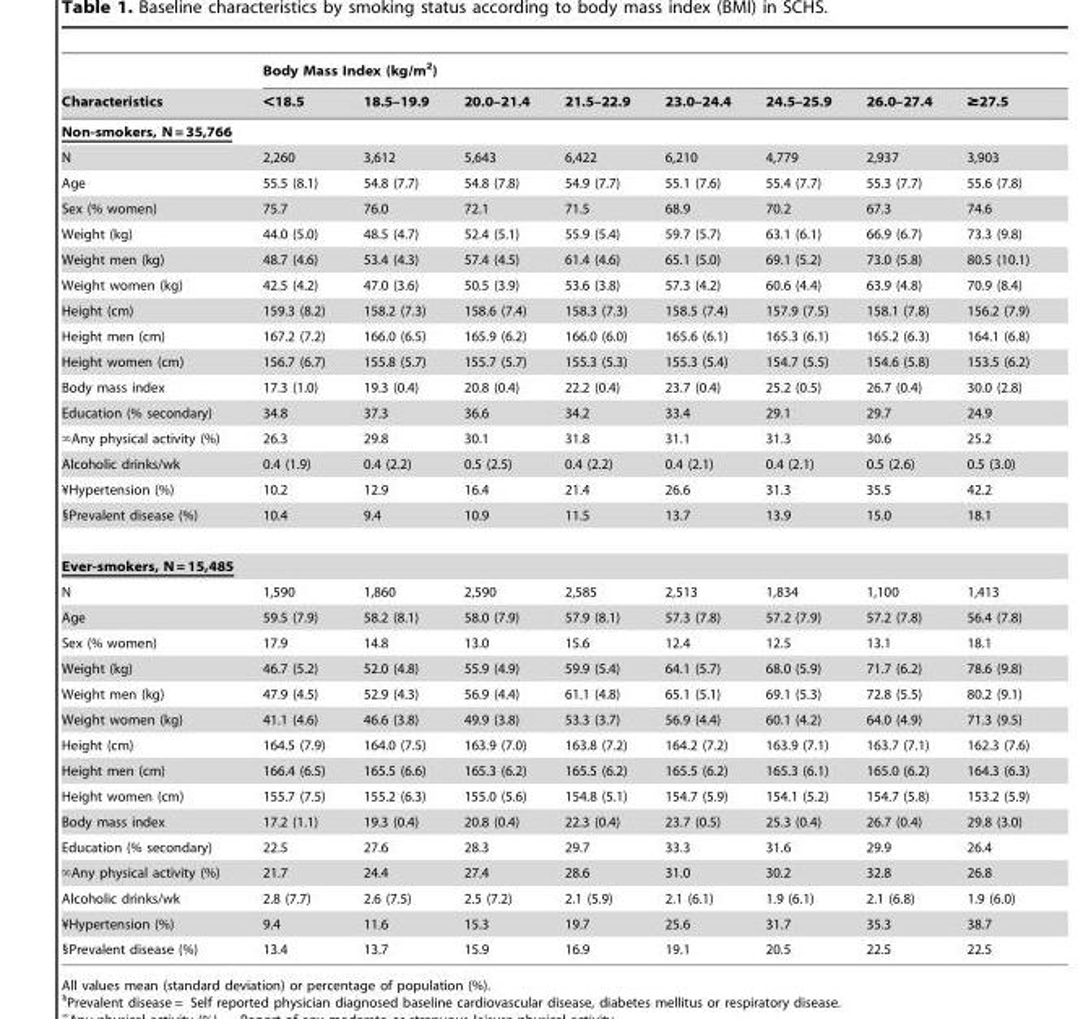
<table><thead><tr><td rowspan="2">Characteristics</td><td colspan="8">Body Mass Index (kg/m<sup>2</sup>)</td></tr><tr><td>&lt;18.5</td><td>18.5–19.9</td><td>20.0–21.4</td><td>21.5–22.9</td><td>23.0–24.4</td><td>24.5–25.9</td><td>26.0–27.4</td><td>≥27.5</td></tr></thead><tbody><tr><td colspan="9">Non-smokers, N = 35,766</td></tr><tr><td>N</td><td>2,260</td><td>3,612</td><td>5,643</td><td>6,422</td><td>6,210</td><td>4,779</td><td>2,937</td><td>3,903</td></tr><tr><td>Age</td><td>55.5 (8.1)</td><td>54.8 (7.7)</td><td>54.8 (7.8)</td><td>54.9 (7.7)</td><td>55.1 (7.6)</td><td>55.4 (7.7)</td><td>55.3 (7.7)</td><td>55.6 (7.8)</td></tr><tr><td>Sex (% women)</td><td>75.7</td><td>76.0</td><td>72.1</td><td>71.5</td><td>68.9</td><td>70.2</td><td>67.3</td><td>74.6</td></tr><tr><td>Weight (kg)</td><td>44.0 (5.0)</td><td>48.5 (4.7)</td><td>52.4 (5.1)</td><td>55.9 (5.4)</td><td>59.7 (5.7)</td><td>63.1 (6.1)</td><td>66.9 (6.7)</td><td>73.3 (9.8)</td></tr><tr><td>Weight men (kg)</td><td>48.7 (4.6)</td><td>53.4 (4.3)</td><td>57.4 (4.5)</td><td>61.4 (4.6)</td><td>65.1 (5.0)</td><td>69.1 (5.2)</td><td>73.0 (5.8)</td><td>80.5 (10.1)</td></tr><tr><td>Weight women (kg)</td><td>42.5 (4.2)</td><td>47.0 (3.6)</td><td>50.5 (3.9)</td><td>53.6 (3.8)</td><td>57.3 (4.2)</td><td>60.6 (4.4)</td><td>63.9 (4.8)</td><td>70.9 (8.4)</td></tr><tr><td>Height (cm)</td><td>159.3 (8.2)</td><td>158.2 (7.3)</td><td>158.6 (7.4)</td><td>158.3 (7.3)</td><td>158.5 (7.4)</td><td>157.9 (7.5)</td><td>158.1 (7.8)</td><td>156.2 (7.9)</td></tr><tr><td>Height men (cm)</td><td>167.2 (7.2)</td><td>166.0 (6.5)</td><td>165.9 (6.2)</td><td>166.0 (6.0)</td><td>165.6 (6.1)</td><td>165.3 (6.1)</td><td>165.2 (6.3)</td><td>164.1 (6.8)</td></tr><tr><td>Height women (cm)</td><td>156.7 (6.7)</td><td>155.8 (5.7)</td><td>155.7 (5.7)</td><td>155.3 (5.3)</td><td>155.3 (5.4)</td><td>154.7 (5.5)</td><td>154.6 (5.8)</td><td>153.5 (6.2)</td></tr><tr><td>Body mass index</td><td>17.3 (1.0)</td><td>19.3 (0.4)</td><td>20.8 (0.4)</td><td>22.2 (0.4)</td><td>23.7 (0.4)</td><td>25.2 (0.5)</td><td>26.7 (0.4)</td><td>30.0 (2.8)</td></tr><tr><td>Education (% secondary)</td><td>34.8</td><td>37.3</td><td>36.6</td><td>34.2</td><td>33.4</td><td>29.1</td><td>29.7</td><td>24.9</td></tr><tr><td>‘Any physical activity (%)</td><td>26.3</td><td>29.8</td><td>30.1</td><td>31.8</td><td>31.1</td><td>31.3</td><td>30.6</td><td>25.2</td></tr><tr><td>Alcoholic drinks/wk</td><td>0.4 (1.9)</td><td>0.4 (2.2)</td><td>0.5 (2.5)</td><td>0.4 (2.2)</td><td>0.4 (2.1)</td><td>0.4 (2.1)</td><td>0.5 (2.6)</td><td>0.5 (3.0)</td></tr><tr><td>¥Hypertension (%)</td><td>10.2</td><td>12.9</td><td>16.4</td><td>21.4</td><td>26.6</td><td>31.3</td><td>35.5</td><td>42.2</td></tr><tr><td>§Prevalent disease (%)</td><td>10.4</td><td>9.4</td><td>10.9</td><td>11.5</td><td>13.7</td><td>13.9</td><td>15.0</td><td>18.1</td></tr><tr><td colspan="9">Ever-smokers, N = 15,485</td></tr><tr><td>N</td><td>1,590</td><td>1,860</td><td>2,590</td><td>2,585</td><td>2,513</td><td>1,834</td><td>1,100</td><td>1,413</td></tr><tr><td>Age</td><td>59.5 (7.9)</td><td>58.2 (8.1)</td><td>58.0 (7.9)</td><td>57.9 (8.1)</td><td>57.3 (7.8)</td><td>57.2 (7.9)</td><td>57.2 (7.8)</td><td>56.4 (7.8)</td></tr><tr><td>Sex (% women)</td><td>17.9</td><td>14.8</td><td>13.0</td><td>15.6</td><td>12.4</td><td>12.5</td><td>13.1</td><td>18.1</td></tr><tr><td>Weight (kg)</td><td>46.7 (5.2)</td><td>52.0 (4.8)</td><td>55.9 (4.9)</td><td>59.9 (5.4)</td><td>64.1 (5.7)</td><td>68.0 (5.9)</td><td>71.7 (6.2)</td><td>78.6 (9.8)</td></tr><tr><td>Weight men (kg)</td><td>47.9 (4.5)</td><td>52.9 (4.3)</td><td>56.9 (4.4)</td><td>61.1 (4.8)</td><td>65.1 (5.1)</td><td>69.1 (5.3)</td><td>72.8 (5.5)</td><td>80.2 (9.1)</td></tr><tr><td>Weight women (kg)</td><td>41.1 (4.6)</td><td>46.6 (3.8)</td><td>49.9 (3.8)</td><td>53.3 (3.7)</td><td>56.9 (4.4)</td><td>60.1 (4.2)</td><td>64.0 (4.9)</td><td>71.3 (9.5)</td></tr><tr><td>Height (cm)</td><td>164.5 (7.9)</td><td>164.0 (7.5)</td><td>163.9 (7.0)</td><td>163.8 (7.2)</td><td>164.2 (7.2)</td><td>163.9 (7.1)</td><td>163.7 (7.1)</td><td>162.3 (7.6)</td></tr><tr><td>Height men (cm)</td><td>166.4 (6.5)</td><td>165.5 (6.6)</td><td>165.3 (6.2)</td><td>165.5 (6.2)</td><td>165.5 (6.2)</td><td>165.3 (6.1)</td><td>165.0 (6.2)</td><td>164.3 (6.3)</td></tr><tr><td>Height women (cm)</td><td>155.7 (7.5)</td><td>155.2 (6.3)</td><td>155.0 (5.6)</td><td>154.8 (5.1)</td><td>154.7 (5.9)</td><td>154.1 (5.2)</td><td>154.7 (5.8)</td><td>153.2 (5.9)</td></tr><tr><td>Body mass index</td><td>17.2 (1.1)</td><td>19.3 (0.4)</td><td>20.8 (0.4)</td><td>22.3 (0.4)</td><td>23.7 (0.5)</td><td>25.3 (0.4)</td><td>26.7 (0.4)</td><td>29.8 (3.0)</td></tr><tr><td>Education (% secondary)</td><td>22.5</td><td>27.6</td><td>28.3</td><td>29.7</td><td>33.3</td><td>31.6</td><td>29.9</td><td>26.4</td></tr><tr><td>‘Any physical activity (%)</td><td>21.7</td><td>24.4</td><td>27.4</td><td>28.6</td><td>31.0</td><td>30.2</td><td>32.8</td><td>26.8</td></tr><tr><td>Alcoholic drinks/wk</td><td>2.8 (7.7)</td><td>2.6 (7.5)</td><td>2.5 (7.2)</td><td>2.1 (5.9)</td><td>2.1 (6.1)</td><td>1.9 (6.1)</td><td>2.1 (6.8)</td><td>1.9 (6.0)</td></tr><tr><td>¥Hypertension (%)</td><td>9.4</td><td>11.6</td><td>15.3</td><td>19.7</td><td>25.6</td><td>31.7</td><td>35.3</td><td>38.7</td></tr><tr><td>§Prevalent disease (%)</td><td>13.4</td><td>13.7</td><td>15.9</td><td>16.9</td><td>19.1</td><td>20.5</td><td>22.5</td><td>22.5</td></tr></tbody></table>